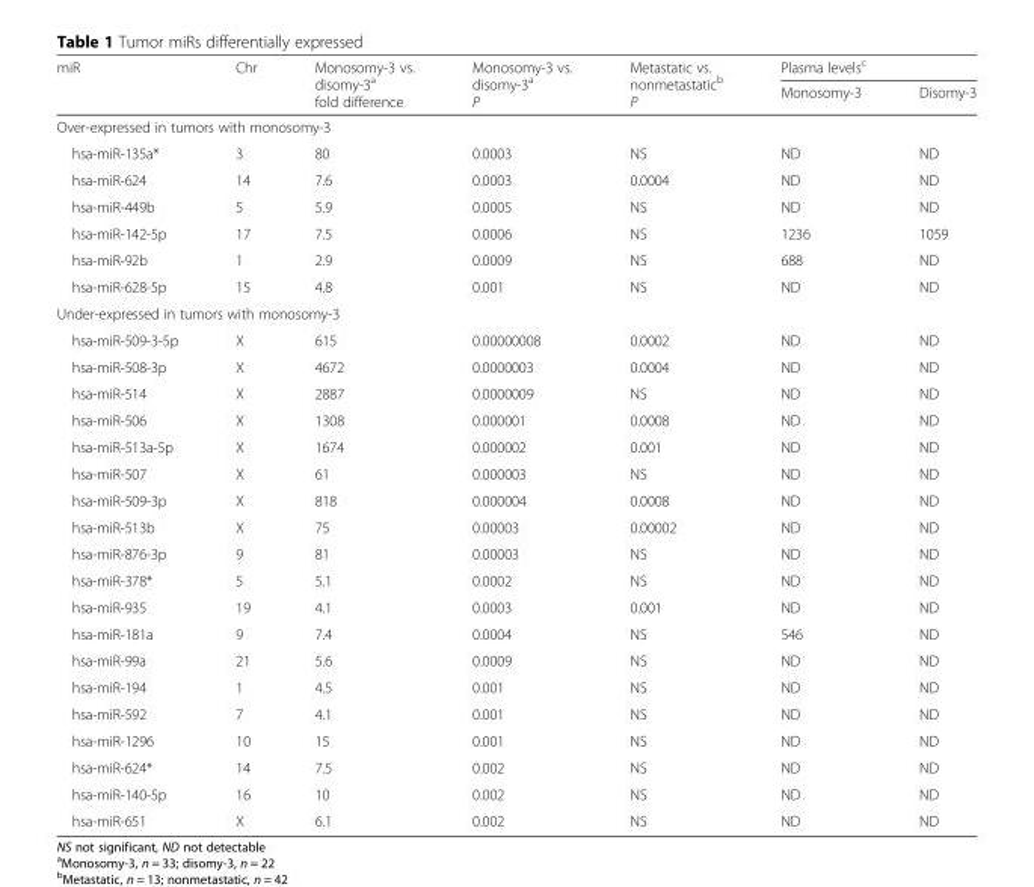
<table><thead><tr><td rowspan="2">miR</td><td rowspan="2">Chr</td><td rowspan="2">Monosomy-3 vs. disomy-3<sup>a</sup> fold difference</td><td rowspan="2">Monosomy-3 vs. disomy-3<sup>a</sup> P</td><td rowspan="2">Metastatic vs. nonmetastatic<sup>b</sup> P</td><td colspan="2">Plasma levels<sup>c</sup></td></tr><tr><td>Monosomy-3</td><td>Disomy-3</td></tr></thead><tbody><tr><td colspan="7">Over-expressed in tumors with monosomy-3</td></tr><tr><td>hsa-miR-135a*</td><td>3</td><td>80</td><td>0.0003</td><td>NS</td><td>ND</td><td>ND</td></tr><tr><td>hsa-miR-624</td><td>14</td><td>7.6</td><td>0.0003</td><td>0.0004</td><td>ND</td><td>ND</td></tr><tr><td>hsa-miR-449b</td><td>5</td><td>5.9</td><td>0.0005</td><td>NS</td><td>ND</td><td>ND</td></tr><tr><td>hsa-miR-142-5p</td><td>17</td><td>7.5</td><td>0.0006</td><td>NS</td><td>1236</td><td>1059</td></tr><tr><td>hsa-miR-92b</td><td>1</td><td>2.9</td><td>0.0009</td><td>NS</td><td>688</td><td>ND</td></tr><tr><td>hsa-miR-628-5p</td><td>15</td><td>4.8</td><td>0.001</td><td>NS</td><td>ND</td><td>ND</td></tr><tr><td colspan="7">Under-expressed in tumors with monosomy-3</td></tr><tr><td>hsa-miR-509-3-5p</td><td>X</td><td>615</td><td>0.00000008</td><td>0.0002</td><td>ND</td><td>ND</td></tr><tr><td>hsa-miR-508-3p</td><td>X</td><td>4672</td><td>0.0000003</td><td>0.0004</td><td>ND</td><td>ND</td></tr><tr><td>hsa-miR-514</td><td>X</td><td>2887</td><td>0.0000009</td><td>NS</td><td>ND</td><td>ND</td></tr><tr><td>hsa-miR-506</td><td>X</td><td>1308</td><td>0.000001</td><td>0.0008</td><td>ND</td><td>ND</td></tr><tr><td>hsa-miR-513a-5p</td><td>X</td><td>1674</td><td>0.000002</td><td>0.001</td><td>ND</td><td>ND</td></tr><tr><td>hsa-miR-507</td><td>X</td><td>61</td><td>0.000003</td><td>NS</td><td>ND</td><td>ND</td></tr><tr><td>hsa-miR-509-3p</td><td>X</td><td>818</td><td>0.000004</td><td>0.0008</td><td>ND</td><td>ND</td></tr><tr><td>hsa-miR-513b</td><td>X</td><td>75</td><td>0.00003</td><td>0.00002</td><td>ND</td><td>ND</td></tr><tr><td>hsa-miR-876-3p</td><td>9</td><td>81</td><td>0.00003</td><td>NS</td><td>ND</td><td>ND</td></tr><tr><td>hsa-miR-378*</td><td>5</td><td>5.1</td><td>0.0002</td><td>NS</td><td>ND</td><td>ND</td></tr><tr><td>hsa-miR-935</td><td>19</td><td>4.1</td><td>0.0003</td><td>0.001</td><td>ND</td><td>ND</td></tr><tr><td>hsa-miR-181a</td><td>9</td><td>7.4</td><td>0.0004</td><td>NS</td><td>546</td><td>ND</td></tr><tr><td>hsa-miR-99a</td><td>21</td><td>5.6</td><td>0.0009</td><td>NS</td><td>ND</td><td>ND</td></tr><tr><td>hsa-miR-194</td><td>1</td><td>4.5</td><td>0.001</td><td>NS</td><td>ND</td><td>ND</td></tr><tr><td>hsa-miR-592</td><td>7</td><td>4.1</td><td>0.001</td><td>NS</td><td>ND</td><td>ND</td></tr><tr><td>hsa-miR-1296</td><td>10</td><td>15</td><td>0.001</td><td>NS</td><td>ND</td><td>ND</td></tr><tr><td>hsa-miR-624*</td><td>14</td><td>7.5</td><td>0.002</td><td>NS</td><td>ND</td><td>ND</td></tr><tr><td>hsa-miR-140-5p</td><td>16</td><td>10</td><td>0.002</td><td>NS</td><td>ND</td><td>ND</td></tr><tr><td>hsa-miR-651</td><td>X</td><td>6.1</td><td>0.002</td><td>NS</td><td>ND</td><td>ND</td></tr></tbody></table>